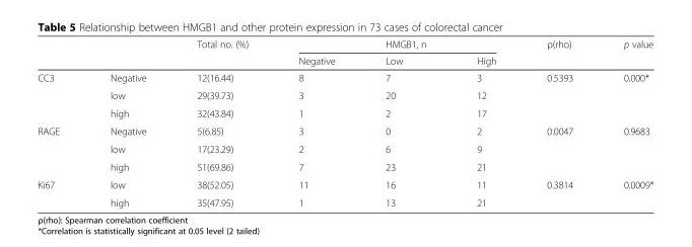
<table><thead><tr><td rowspan="2"></td><td rowspan="2"></td><td rowspan="2">Total no. (%)</td><td rowspan="2">Negative</td><td rowspan="2">HMGB1, n Low</td><td rowspan="2">High</td><td rowspan="2">ρ(rho)</td><td rowspan="2">p value</td></tr><tr></tr></thead><tbody><tr><td rowspan="3">CC3</td><td>Negative</td><td>12(16.44)</td><td>8</td><td>7</td><td>3</td><td>0.5393</td><td>0.000*</td></tr><tr><td>low</td><td>29(39.73)</td><td>3</td><td>20</td><td>12</td><td></td><td></td></tr><tr><td>high</td><td>32(43.84)</td><td>1</td><td>2</td><td>17</td><td></td><td></td></tr><tr><td rowspan="3">RAGE</td><td>Negative</td><td>5(6.85)</td><td>3</td><td>0</td><td>2</td><td>0.0047</td><td>0.9683</td></tr><tr><td>low</td><td>17(23.29)</td><td>2</td><td>6</td><td>9</td><td></td><td></td></tr><tr><td>high</td><td>51(69.86)</td><td>7</td><td>23</td><td>21</td><td></td><td></td></tr><tr><td rowspan="2">Ki67</td><td>low</td><td>38(52.05)</td><td>11</td><td>16</td><td>11</td><td>0.3814</td><td>0.0009*</td></tr><tr><td>high</td><td>35(47.95)</td><td>1</td><td>13</td><td>21</td><td></td><td></td></tr></tbody></table>